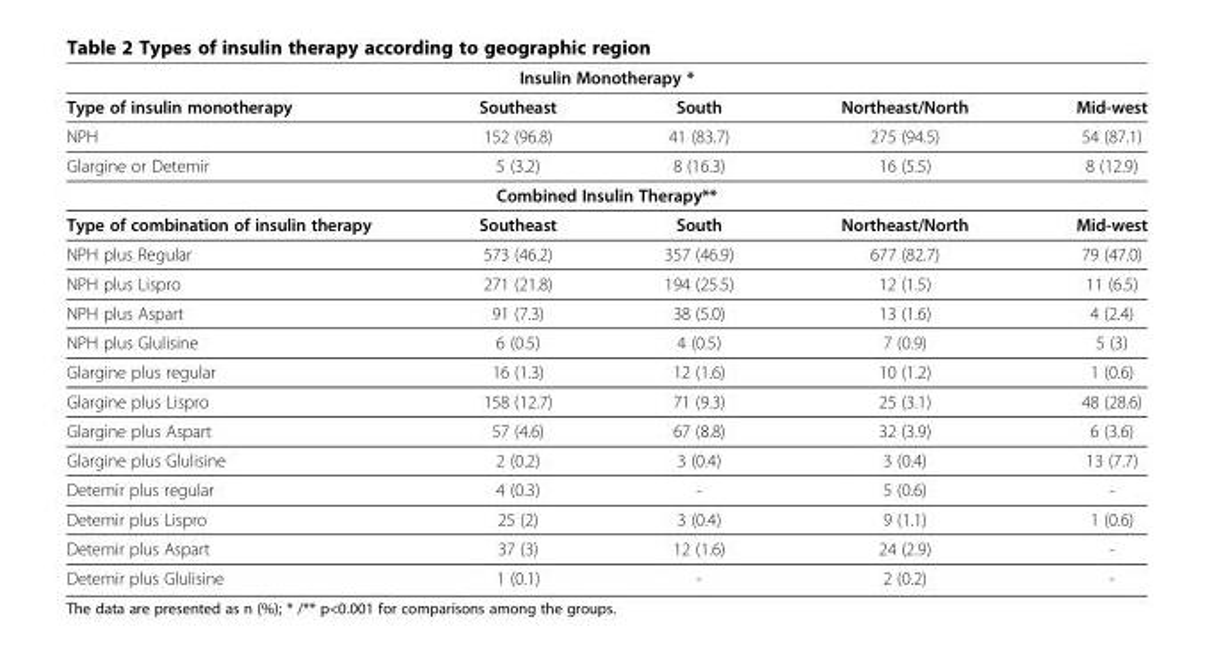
<table><thead><tr><td rowspan="2">Type of insulin monotherapy</td><td colspan="2">Insulin Monotherapy *</td><td rowspan="2">Northeast/North</td><td rowspan="2">Mid-west</td></tr><tr><td>Southeast</td><td>South</td></tr></thead><tbody><tr><td>NPH</td><td>152 (96.8)</td><td>41 (83.7)</td><td>275 (94.5)</td><td>54 (87.1)</td></tr><tr><td rowspan="2">Glargine or Detemir</td><td>5 (3.2)</td><td>8 (16.3)</td><td>16 (5.5)</td><td>8 (12.9)</td></tr><tr><td colspan="2">Combined Insulin Therapy**</td><td></td><td></td></tr><tr><td>Type of combination of insulin therapy</td><td>Southeast</td><td>South</td><td>Northeast/North</td><td>Mid-west</td></tr><tr><td>NPH plus Regular</td><td>573 (46.2)</td><td>357 (46.9)</td><td>677 (82.7)</td><td>79 (47.0)</td></tr><tr><td>NPH plus Lispro</td><td>271 (21.8)</td><td>194 (25.5)</td><td>12 (1.5)</td><td>11 (6.5)</td></tr><tr><td>NPH plus Aspart</td><td>91 (7.3)</td><td>38 (5.0)</td><td>13 (1.6)</td><td>4 (2.4)</td></tr><tr><td>NPH plus Glulisine</td><td>6 (0.5)</td><td>4 (0.5)</td><td>7 (0.9)</td><td>5 (3)</td></tr><tr><td>Glargine plus regular</td><td>16 (1.3)</td><td>12 (1.6)</td><td>10 (1.2)</td><td>1 (0.6)</td></tr><tr><td>Glargine plus Lispro</td><td>158 (12.7)</td><td>71 (9.3)</td><td>25 (3.1)</td><td>48 (28.6)</td></tr><tr><td>Glargine plus Aspart</td><td>57 (4.6)</td><td>67 (8.8)</td><td>32 (3.9)</td><td>6 (3.6)</td></tr><tr><td>Glargine plus Glulisine</td><td>2 (0.2)</td><td>3 (0.4)</td><td>3 (0.4)</td><td>13 (7.7)</td></tr><tr><td>Detemir plus regular</td><td>4 (0.3)</td><td>-</td><td>5 (0.6)</td><td>-</td></tr><tr><td>Detemir plus Lispro</td><td>25 (2)</td><td>3 (0.4)</td><td>9 (1.1)</td><td>1 (0.6)</td></tr><tr><td>Detemir plus Aspart</td><td>37 (3)</td><td>12 (1.6)</td><td>24 (2.9)</td><td>-</td></tr><tr><td>Detemir plus Glulisine</td><td>1 (0.1)</td><td>-</td><td>2 (0.2)</td><td>-</td></tr></tbody></table>